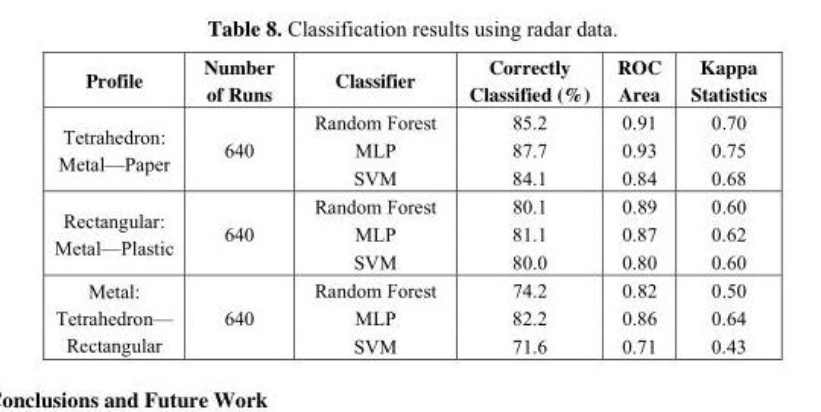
<table><thead><tr><td>Profile</td><td>Number of Runs</td><td>Classifier</td><td>Correctly Classified (%)</td><td>ROC Area</td><td>Kappa Statistics</td></tr></thead><tbody><tr><td rowspan="3">Tetrahedron: Metal—Paper</td><td rowspan="3">640</td><td>Random Forest</td><td>85.2</td><td>0.91</td><td>0.70</td></tr><tr><td>MLP</td><td>87.7</td><td>0.93</td><td>0.75</td></tr><tr><td>SVM</td><td>84.1</td><td>0.84</td><td>0.68</td></tr><tr><td rowspan="3">Rectangular: Metal—Plastic</td><td rowspan="3">640</td><td>Random Forest</td><td>80.1</td><td>0.89</td><td>0.60</td></tr><tr><td>MLP</td><td>81.1</td><td>0.87</td><td>0.62</td></tr><tr><td>SVM</td><td>80.0</td><td>0.80</td><td>0.60</td></tr><tr><td rowspan="3">Metal: Tetrahedron— Rectangular</td><td rowspan="3">640</td><td>Random Forest</td><td>74.2</td><td>0.82</td><td>0.50</td></tr><tr><td>MLP</td><td>82.2</td><td>0.86</td><td>0.64</td></tr><tr><td>SVM</td><td>71.6</td><td>0.71</td><td>0.43</td></tr></tbody></table>